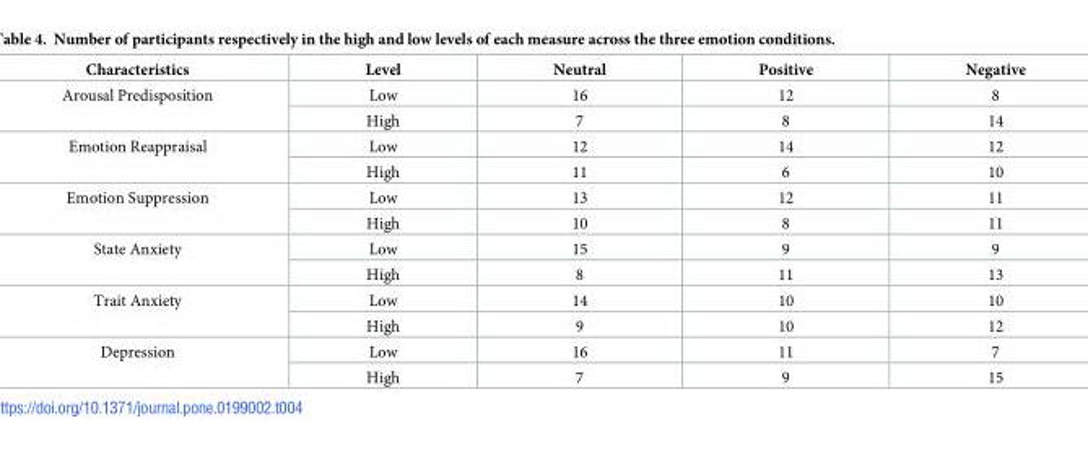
<table><thead><tr><td>Characteristics</td><td>Level</td><td>Neutral</td><td>Positive</td><td>Negative</td></tr></thead><tbody><tr><td rowspan="2">Arousal Predisposition</td><td>Low</td><td>16</td><td>12</td><td>8</td></tr><tr><td>High</td><td>7</td><td>8</td><td>14</td></tr><tr><td rowspan="2">Emotion Reappraisal</td><td>Low</td><td>12</td><td>14</td><td>12</td></tr><tr><td>High</td><td>11</td><td>6</td><td>10</td></tr><tr><td rowspan="2">Emotion Suppression</td><td>Low</td><td>13</td><td>12</td><td>11</td></tr><tr><td>High</td><td>10</td><td>8</td><td>11</td></tr><tr><td rowspan="2">State Anxiety</td><td>Low</td><td>15</td><td>9</td><td>9</td></tr><tr><td>High</td><td>8</td><td>11</td><td>13</td></tr><tr><td rowspan="2">Trait Anxiety</td><td>Low</td><td>14</td><td>10</td><td>10</td></tr><tr><td>High</td><td>9</td><td>10</td><td>12</td></tr><tr><td rowspan="2">Depression</td><td>Low</td><td>16</td><td>11</td><td>7</td></tr><tr><td>High</td><td>7</td><td>9</td><td>15</td></tr></tbody></table>